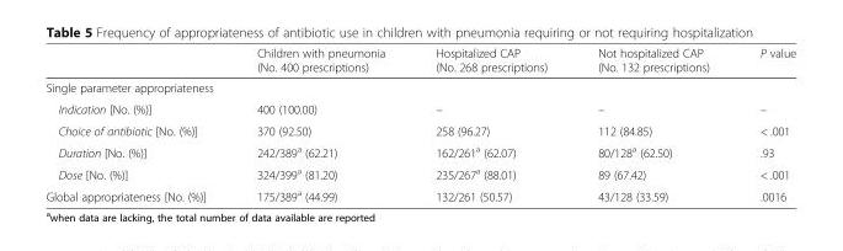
<table><thead><tr><td></td><td>Children with pneumonia (No. 400 prescriptions)</td><td>Hospitalized CAP (No. 268 prescriptions)</td><td>Not hospitalized CAP (No. 132 prescriptions)</td><td>P value</td></tr></thead><tbody><tr><td colspan="5">Single parameter appropriateness</td></tr><tr><td>Indication [No. (%)]</td><td>400 (100.00)</td><td>–</td><td>–</td><td>–</td></tr><tr><td>Choice of antibiotic [No. (%)]</td><td>370 (92.50)</td><td>258 (96.27)</td><td>112 (84.85)</td><td>&lt; .001</td></tr><tr><td>Duration [No. (%)]</td><td>242/389<sup>a</sup> (62.21)</td><td>162/261<sup>a</sup> (62.07)</td><td>80/128<sup>a</sup> (62.50)</td><td>.93</td></tr><tr><td>Dose [No. (%)]</td><td>324/399<sup>a</sup> (81.20)</td><td>235/267<sup>a</sup> (88.01)</td><td>89 (67.42)</td><td>&lt; .001</td></tr><tr><td>Global appropriateness [No. (%)]</td><td>175/389<sup>a</sup> (44.99)</td><td>132/261 (50.57)</td><td>43/128 (33.59)</td><td>.0016</td></tr></tbody></table>